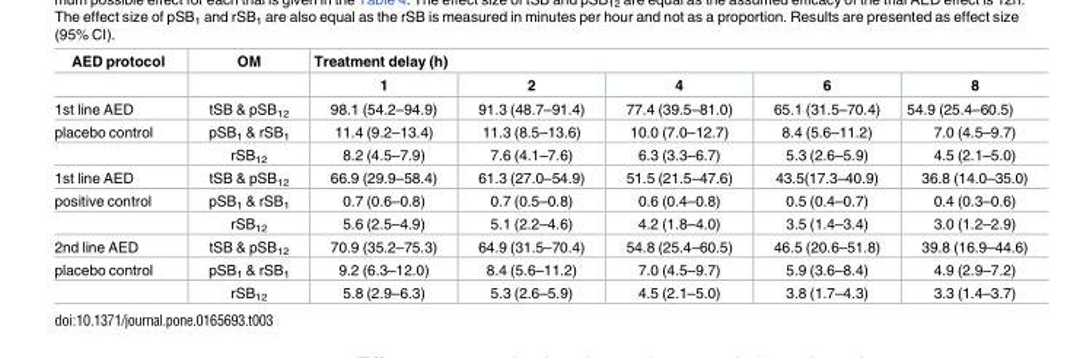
<table><thead><tr><td rowspan="2">AED protocol</td><td rowspan="2">OM</td><td colspan="5">Treatment delay (h)</td></tr><tr><td>1</td><td>2</td><td>4</td><td>6</td><td>8</td></tr></thead><tbody><tr><td>1st line AED</td><td>tSB &amp; pSB<sub>12</sub></td><td>98.1 (54.2–94.9)</td><td>91.3 (48.7–91.4)</td><td>77.4 (39.5–81.0)</td><td>65.1 (31.5–70.4)</td><td>54.9 (25.4–60.5)</td></tr><tr><td rowspan="2">placebo control</td><td>pSB<sub>1</sub> &amp; rSB<sub>1</sub></td><td>11.4 (9.2–13.4)</td><td>11.3 (8.5–13.6)</td><td>10.0 (7.0–12.7)</td><td>8.4 (5.6–11.2)</td><td>7.0 (4.5–9.7)</td></tr><tr><td>rSB<sub>12</sub></td><td>8.2 (4.5–7.9)</td><td>7.6 (4.1–7.6)</td><td>6.3 (3.3–6.7)</td><td>5.3 (2.6–5.9)</td><td>4.5 (2.1–5.0)</td></tr><tr><td>1st line AED</td><td>tSB &amp; pSB<sub>12</sub></td><td>66.9 (29.9–58.4)</td><td>61.3 (27.0–54.9)</td><td>51.5 (21.5–47.6)</td><td>43.5(17.3–40.9)</td><td>36.8 (14.0–35.0)</td></tr><tr><td rowspan="2">positive control</td><td>pSB<sub>1</sub> &amp; rSB<sub>1</sub></td><td>0.7 (0.6–0.8)</td><td>0.7 (0.5–0.8)</td><td>0.6 (0.4–0.8)</td><td>0.5 (0.4–0.7)</td><td>0.4 (0.3–0.6)</td></tr><tr><td>rSB<sub>12</sub></td><td>5.6 (2.5–4.9)</td><td>5.1 (2.2–4.6)</td><td>4.2 (1.8–4.0)</td><td>3.5 (1.4–3.4)</td><td>3.0 (1.2–2.9)</td></tr><tr><td>2nd line AED</td><td>tSB &amp; pSB<sub>12</sub></td><td>70.9 (35.2–75.3)</td><td>64.9 (31.5–70.4)</td><td>54.8 (25.4–60.5)</td><td>46.5 (20.6–51.8)</td><td>39.8 (16.9–44.6)</td></tr><tr><td rowspan="2">placebo control</td><td>pSB<sub>1</sub> &amp; rSB<sub>1</sub></td><td>9.2 (6.3–12.0)</td><td>8.4 (5.6–11.2)</td><td>7.0 (4.5–9.7)</td><td>5.9 (3.6–8.4)</td><td>4.9 (2.9–7.2)</td></tr><tr><td>rSB<sub>12</sub></td><td>5.8 (2.9–6.3)</td><td>5.3 (2.6–5.9)</td><td>4.5 (2.1–5.0)</td><td>3.8 (1.7–4.3)</td><td>3.3 (1.4–3.7)</td></tr></tbody></table>